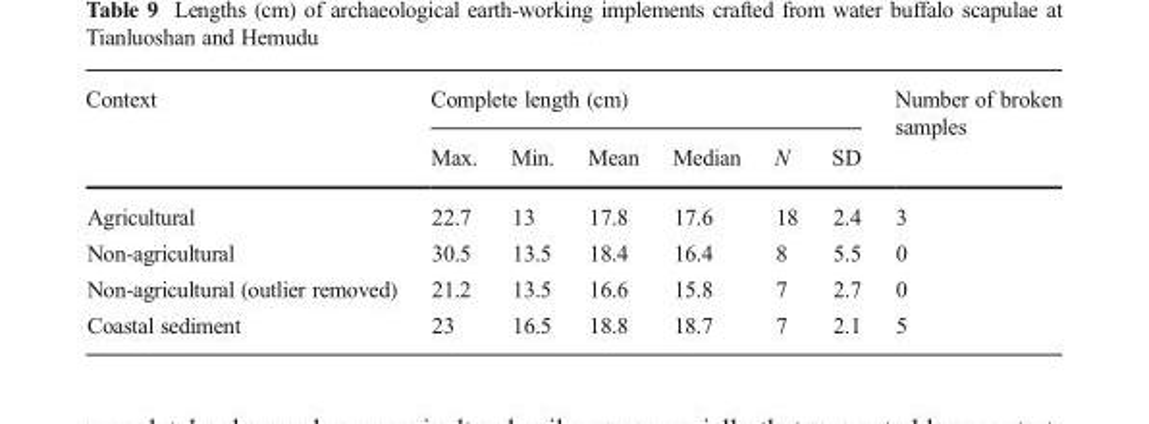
<table><thead><tr><td rowspan="2">Context</td><td colspan="6">Complete length (cm)</td><td rowspan="2">Number of broken samples</td></tr><tr><td>Max.</td><td>Min.</td><td>Mean</td><td>Median</td><td>N</td><td>SD</td></tr></thead><tbody><tr><td>Agricultural</td><td>22.7</td><td>13</td><td>17.8</td><td>17.6</td><td>18</td><td>2.4</td><td>3</td></tr><tr><td>Non-agricultural</td><td>30.5</td><td>13.5</td><td>18.4</td><td>16.4</td><td>8</td><td>5.5</td><td>0</td></tr><tr><td>Non-agricultural (outlier removed)</td><td>21.2</td><td>13.5</td><td>16.6</td><td>15.8</td><td>7</td><td>2.7</td><td>0</td></tr><tr><td>Coastal sediment</td><td>23</td><td>16.5</td><td>18.8</td><td>18.7</td><td>7</td><td>2.1</td><td>5</td></tr></tbody></table>